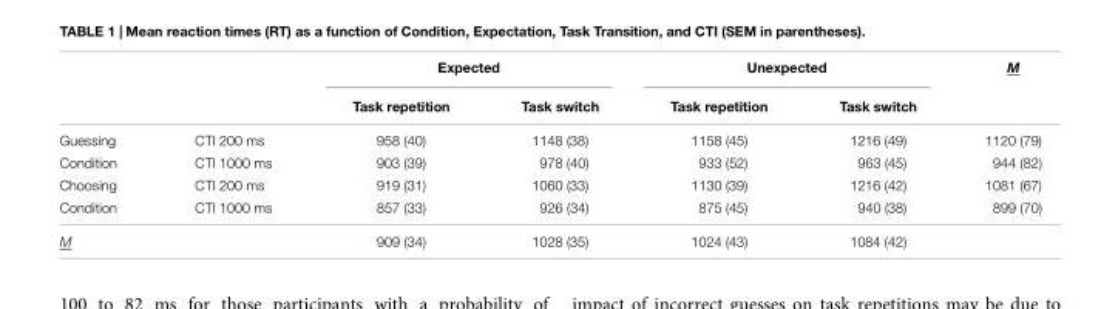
<table><thead><tr><td rowspan="2"></td><td rowspan="2"></td><td colspan="2">Expected</td><td colspan="2">Unexpected</td><td rowspan="2">M</td></tr><tr><td>Task repetition</td><td>Task switch</td><td>Task repetition</td><td>Task switch</td></tr></thead><tbody><tr><td>Guessing</td><td>CTI 200 ms</td><td>958 (40)</td><td>1148 (38)</td><td>1158 (45)</td><td>1216 (49)</td><td>1120 (79)</td></tr><tr><td>Condition</td><td>CTI 1000 ms</td><td>903 (39)</td><td>978 (40)</td><td>933 (52)</td><td>963 (45)</td><td>944 (82)</td></tr><tr><td>Choosing</td><td>CTI 200 ms</td><td>919 (31)</td><td>1060 (33)</td><td>1130 (39)</td><td>1216 (42)</td><td>1081 (67)</td></tr><tr><td>Condition</td><td>CTI 1000 ms</td><td>857 (33)</td><td>926 (34)</td><td>875 (45)</td><td>940 (38)</td><td>899 (70)</td></tr><tr><td>M</td><td></td><td>909 (34)</td><td>1028 (35)</td><td>1024 (43)</td><td>1084 (42)</td><td></td></tr></tbody></table>